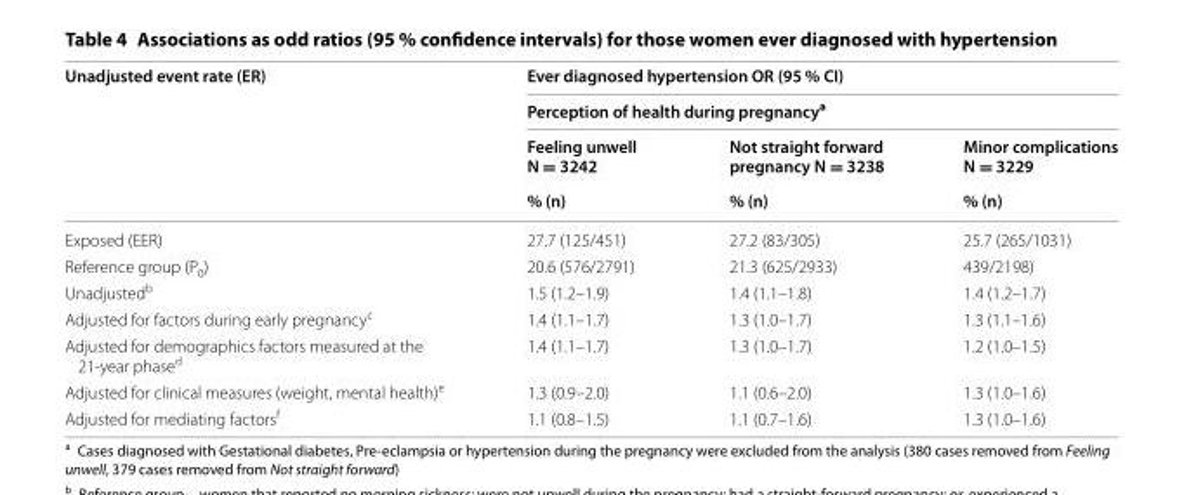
<table><thead><tr><td rowspan="4">Unadjusted event rate (ER)</td><td rowspan="2" colspan="3">Ever diagnosed hypertension OR (95 % CI) Perception of health during pregnancy<sup>a</sup></td></tr><tr></tr><tr><td rowspan="2">Feeling unwell N = 3242 % (n)</td><td rowspan="2">Not straight forward pregnancy N = 3238 % (n)</td><td rowspan="2">Minor complications N = 3229 % (n)</td></tr><tr></tr></thead><tbody><tr><td>Exposed (EER)</td><td>27.7 (125/451)</td><td>27.2 (83/305)</td><td>25.7 (265/1031)</td></tr><tr><td>Reference group (P<sub>0</sub>)</td><td>20.6 (576/2791)</td><td>21.3 (625/2933)</td><td>439/2198)</td></tr><tr><td>Unadjusted<sup>b</sup></td><td>1.5 (1.2–1.9)</td><td>1.4 (1.1–1.8)</td><td>1.4 (1.2–1.7)</td></tr><tr><td>Adjusted for factors during early pregnancy<sup>c</sup></td><td>1.4 (1.1–1.7)</td><td>1.3 (1.0–1.7)</td><td>1.3 (1.1–1.6)</td></tr><tr><td>Adjusted for demographics factors measured at the 21-year phase<sup>d</sup></td><td>1.4 (1.1–1.7)</td><td>1.3 (1.0–1.7)</td><td>1.2 (1.0–1.5)</td></tr><tr><td>Adjusted for clinical measures (weight, mental health)<sup>e</sup></td><td>1.3 (0.9–2.0)</td><td>1.1 (0.6–2.0)</td><td>1.3 (1.0–1.6)</td></tr><tr><td>Adjusted for mediating factors<sup>f</sup></td><td>1.1 (0.8–1.5)</td><td>1.1 (0.7–1.6)</td><td>1.3 (1.0–1.6)</td></tr></tbody></table>